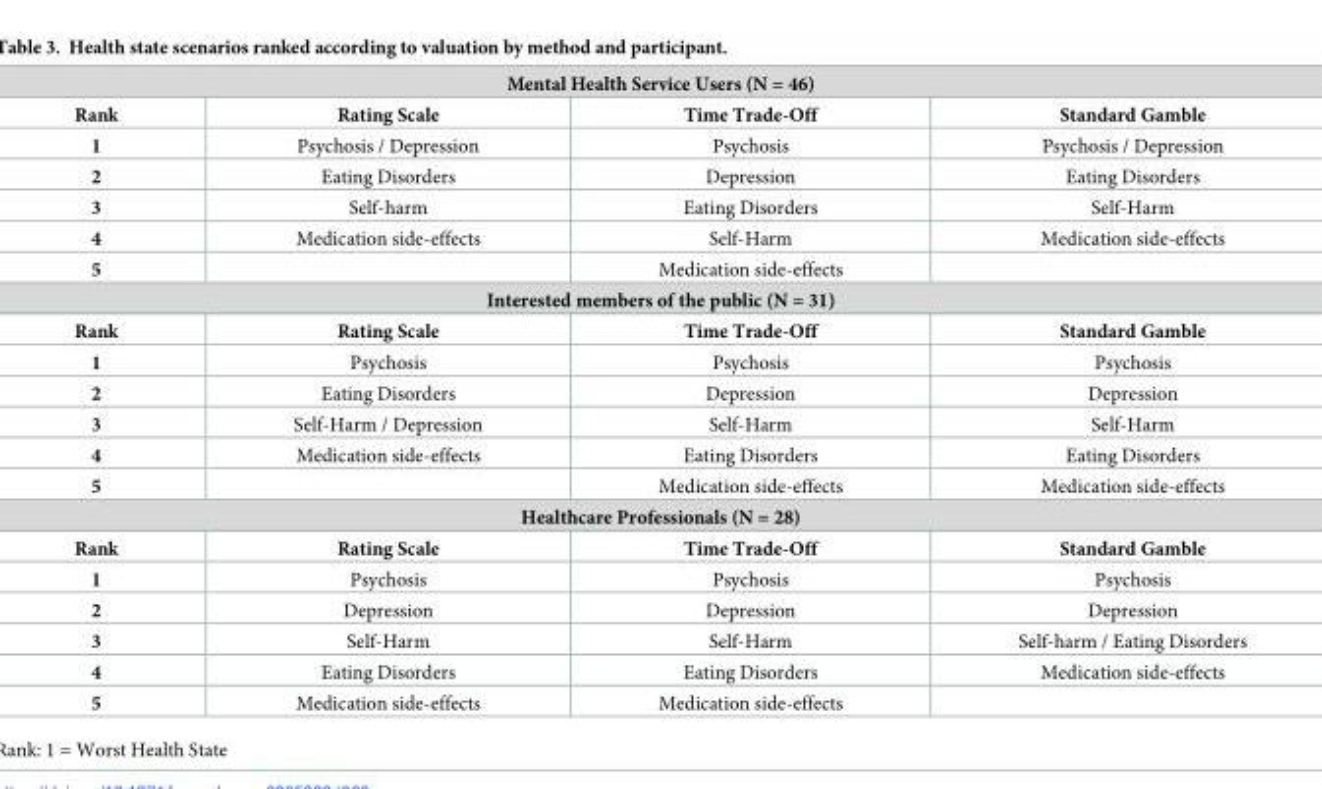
<table><tbody><tr><td colspan="4">Mental Health Service Users (N = 46)</td></tr><tr><td>Rank</td><td>Rating Scale</td><td>Time Trade-Off</td><td>Standard Gamble</td></tr><tr><td>1</td><td>Psychosis / Depression</td><td>Psychosis</td><td>Psychosis / Depression</td></tr><tr><td>2</td><td>Eating Disorders</td><td>Depression</td><td>Eating Disorders</td></tr><tr><td>3</td><td>Self-harm</td><td>Eating Disorders</td><td>Self-Harm</td></tr><tr><td>4</td><td>Medication side-effects</td><td>Self-Harm</td><td>Medication side-effects</td></tr><tr><td>5</td><td></td><td>Medication side-effects</td><td></td></tr><tr><td colspan="4">Interested members of the public (N = 31)</td></tr><tr><td>Rank</td><td>Rating Scale</td><td>Time Trade-Off</td><td>Standard Gamble</td></tr><tr><td>1</td><td>Psychosis</td><td>Psychosis</td><td>Psychosis</td></tr><tr><td>2</td><td>Eating Disorders</td><td>Depression</td><td>Depression</td></tr><tr><td>3</td><td>Self-Harm / Depression</td><td>Self-Harm</td><td>Self-Harm</td></tr><tr><td>4</td><td>Medication side-effects</td><td>Eating Disorders</td><td>Eating Disorders</td></tr><tr><td>5</td><td></td><td>Medication side-effects</td><td>Medication side-effects</td></tr><tr><td colspan="4">Healthcare Professionals (N = 28)</td></tr><tr><td>Rank</td><td>Rating Scale</td><td>Time Trade-Off</td><td>Standard Gamble</td></tr><tr><td>1</td><td>Psychosis</td><td>Psychosis</td><td>Psychosis</td></tr><tr><td>2</td><td>Depression</td><td>Depression</td><td>Depression</td></tr><tr><td>3</td><td>Self-Harm</td><td>Self-Harm</td><td>Self-harm / Eating Disorders</td></tr><tr><td>4</td><td>Eating Disorders</td><td>Eating Disorders</td><td>Medication side-effects</td></tr><tr><td>5</td><td>Medication side-effects</td><td>Medication side-effects</td><td></td></tr></tbody></table>